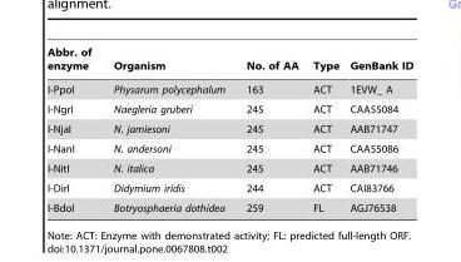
<table><thead><tr><td>Abbr. of enzyme</td><td>Organism</td><td>No. of AA</td><td>Type</td><td>GenBank ID</td></tr></thead><tbody><tr><td>I-PpoI</td><td>Physarum polycephalum</td><td>163</td><td>ACT</td><td>1EVW_ A</td></tr><tr><td>I-NgrI</td><td>Naegleria gruberi</td><td>245</td><td>ACT</td><td>CAA55084</td></tr><tr><td>I-NjaI</td><td>N. jamiesoni</td><td>245</td><td>ACT</td><td>AAB71747</td></tr><tr><td>I-NanI</td><td>N. andersoni</td><td>245</td><td>ACT</td><td>CAA55086</td></tr><tr><td>I-NitI</td><td>N. italica</td><td>245</td><td>ACT</td><td>AAB71746</td></tr><tr><td>I-DirI</td><td>Didymium iridis</td><td>244</td><td>ACT</td><td>CAI83766</td></tr><tr><td>I-BdoI</td><td>Botryosphaeria dothidea</td><td>259</td><td>FL</td><td>AGJ76538</td></tr></tbody></table>